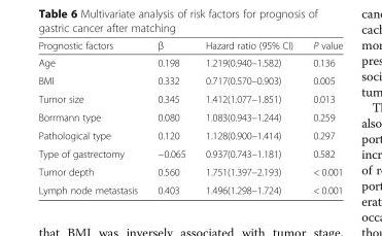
<table><thead><tr><td>Prognostic factors</td><td>β</td><td>Hazard ratio (95% CI)</td><td>P value</td></tr></thead><tbody><tr><td>Age</td><td>0.198</td><td>1.219(0.940–1.582)</td><td>0.136</td></tr><tr><td>BMI</td><td>0.332</td><td>0.717(0.570–0.903)</td><td>0.005</td></tr><tr><td>Tumor size</td><td>0.345</td><td>1.412(1.077–1.851)</td><td>0.013</td></tr><tr><td>Borrmann type</td><td>0.080</td><td>1.083(0.943–1.244)</td><td>0.259</td></tr><tr><td>Pathological type</td><td>0.120</td><td>1.128(0.900–1.414)</td><td>0.297</td></tr><tr><td>Type of gastrectomy</td><td>−0.065</td><td>0.937(0.743–1.181)</td><td>0.582</td></tr><tr><td>Tumor depth</td><td>0.560</td><td>1.751(1.397–2.193)</td><td>&lt; 0.001</td></tr><tr><td>Lymph node metastasis</td><td>0.403</td><td>1.496(1.298–1.724)</td><td>&lt; 0.001</td></tr></tbody></table>